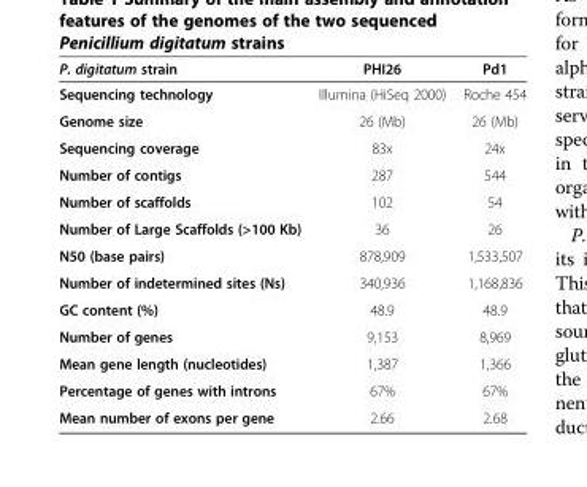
<table><thead><tr><td>P. digitatum strain</td><td>PHI26</td><td>Pd1</td></tr></thead><tbody><tr><td>Sequencing technology</td><td>Illumina (HiSeq 2000)</td><td>Roche 454</td></tr><tr><td>Genome size</td><td>26 (Mb)</td><td>26 (Mb)</td></tr><tr><td>Sequencing coverage</td><td>83x</td><td>24x</td></tr><tr><td>Number of contigs</td><td>287</td><td>544</td></tr><tr><td>Number of scaffolds</td><td>102</td><td>54</td></tr><tr><td>Number of Large Scaffolds (&gt;100 Kb)</td><td>36</td><td>26</td></tr><tr><td>N50 (base pairs)</td><td>878,909</td><td>1,533,507</td></tr><tr><td>Number of indetermined sites (Ns)</td><td>340,936</td><td>1,168,836</td></tr><tr><td>GC content (%)</td><td>48.9</td><td>48.9</td></tr><tr><td>Number of genes</td><td>9,153</td><td>8,969</td></tr><tr><td>Mean gene length (nucleotides)</td><td>1,387</td><td>1,366</td></tr><tr><td>Percentage of genes with introns</td><td>67%</td><td>67%</td></tr><tr><td>Mean number of exons per gene</td><td>2.66</td><td>2.68</td></tr></tbody></table>